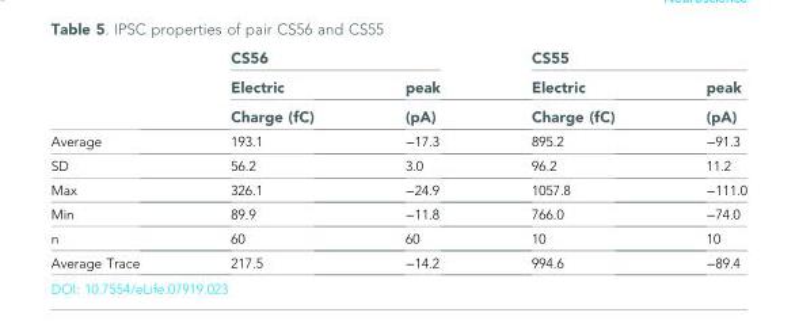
<table><thead><tr><td rowspan="3"></td><td colspan="2">CS56</td><td colspan="2">CS55</td></tr><tr><td rowspan="2">Electric Charge (fC)</td><td rowspan="2">peak (pA)</td><td rowspan="2">Electric Charge (fC)</td><td rowspan="2">peak (pA)</td></tr><tr></tr></thead><tbody><tr><td>Average</td><td>193.1</td><td>−17.3</td><td>895.2</td><td>−91.3</td></tr><tr><td>SD</td><td>56.2</td><td>3.0</td><td>96.2</td><td>11.2</td></tr><tr><td>Max</td><td>326.1</td><td>−24.9</td><td>1057.8</td><td>−111.0</td></tr><tr><td>Min</td><td>89.9</td><td>−11.8</td><td>766.0</td><td>−74.0</td></tr><tr><td>n</td><td>60</td><td>60</td><td>10</td><td>10</td></tr><tr><td>Average Trace</td><td>217.5</td><td>−14.2</td><td>994.6</td><td>−89.4</td></tr></tbody></table>